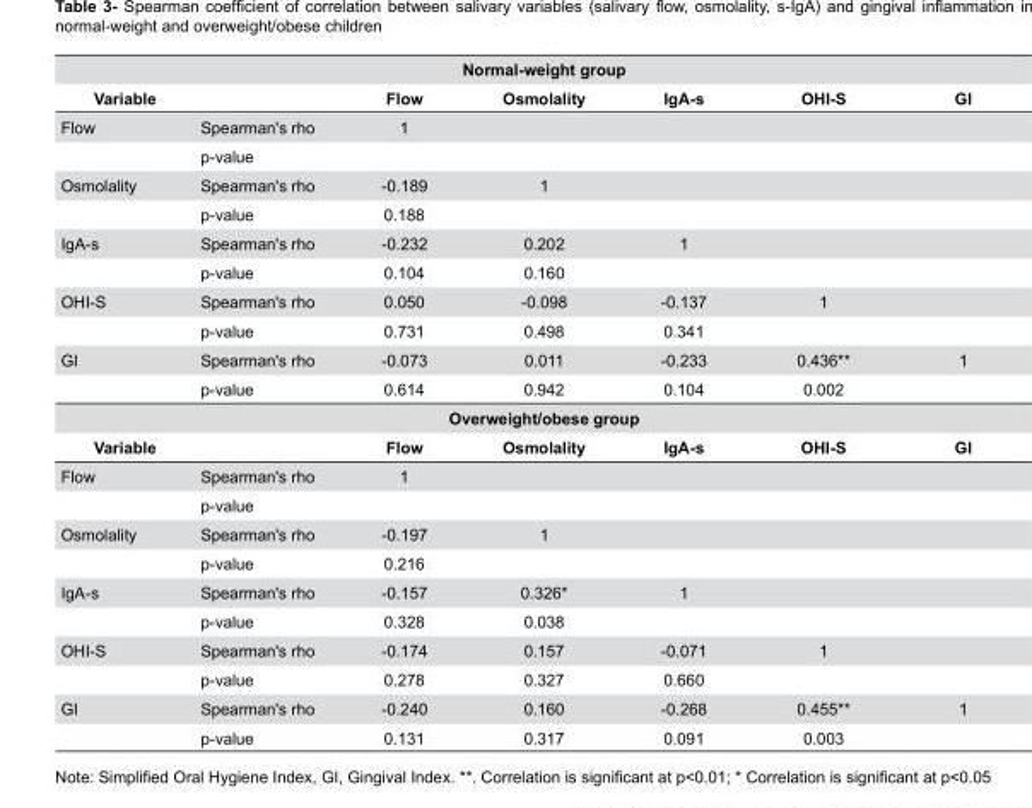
<table><thead><tr><td colspan="7">Normal-weight group</td></tr><tr><td>Variable</td><td></td><td>Flow</td><td>Osmolality</td><td>IgA-s</td><td>OHI-S</td><td>GI</td></tr></thead><tbody><tr><td rowspan="2">Flow</td><td>Spearman&#x27;s rho</td><td>1</td><td></td><td></td><td></td><td></td></tr><tr><td>p-value</td><td></td><td></td><td></td><td></td><td></td></tr><tr><td rowspan="2">Osmolality</td><td>Spearman&#x27;s rho</td><td>-0.189</td><td>1</td><td></td><td></td><td></td></tr><tr><td>p-value</td><td>0.188</td><td></td><td></td><td></td><td></td></tr><tr><td rowspan="2">IgA-s</td><td>Spearman&#x27;s rho</td><td>-0.232</td><td>0.202</td><td>1</td><td></td><td></td></tr><tr><td>p-value</td><td>0.104</td><td>0.160</td><td></td><td></td><td></td></tr><tr><td rowspan="2">OHI-S</td><td>Spearman&#x27;s rho</td><td>0.050</td><td>-0.098</td><td>-0.137</td><td>1</td><td></td></tr><tr><td>p-value</td><td>0.731</td><td>0.498</td><td>0.341</td><td></td><td></td></tr><tr><td rowspan="2">GI</td><td>Spearman&#x27;s rho</td><td>-0.073</td><td>0.011</td><td>-0.233</td><td>0.436**</td><td>1</td></tr><tr><td>p-value</td><td>0.614</td><td>0.942</td><td>0.104</td><td>0.002</td><td></td></tr><tr><td colspan="7">Overweight/obese group</td></tr><tr><td>Variable</td><td></td><td>Flow</td><td>Osmolality</td><td>IgA-s</td><td>OHI-S</td><td>GI</td></tr><tr><td rowspan="2">Flow</td><td>Spearman&#x27;s rho</td><td>1</td><td></td><td></td><td></td><td></td></tr><tr><td>p-value</td><td></td><td></td><td></td><td></td><td></td></tr><tr><td rowspan="2">Osmolality</td><td>Spearman&#x27;s rho</td><td>-0.197</td><td>1</td><td></td><td></td><td></td></tr><tr><td>p-value</td><td>0.216</td><td></td><td></td><td></td><td></td></tr><tr><td rowspan="2">IgA-s</td><td>Spearman&#x27;s rho</td><td>-0.157</td><td>0.326*</td><td>1</td><td></td><td></td></tr><tr><td>p-value</td><td>0.328</td><td>0.038</td><td></td><td></td><td></td></tr><tr><td rowspan="2">OHI-S</td><td>Spearman&#x27;s rho</td><td>-0.174</td><td>0.157</td><td>-0.071</td><td>1</td><td></td></tr><tr><td>p-value</td><td>0.278</td><td>0.327</td><td>0.660</td><td></td><td></td></tr><tr><td rowspan="2">GI</td><td>Spearman&#x27;s rho</td><td>-0.240</td><td>0.160</td><td>-0.268</td><td>0.455**</td><td>1</td></tr><tr><td>p-value</td><td>0.131</td><td>0.317</td><td>0.091</td><td>0.003</td><td></td></tr></tbody></table>